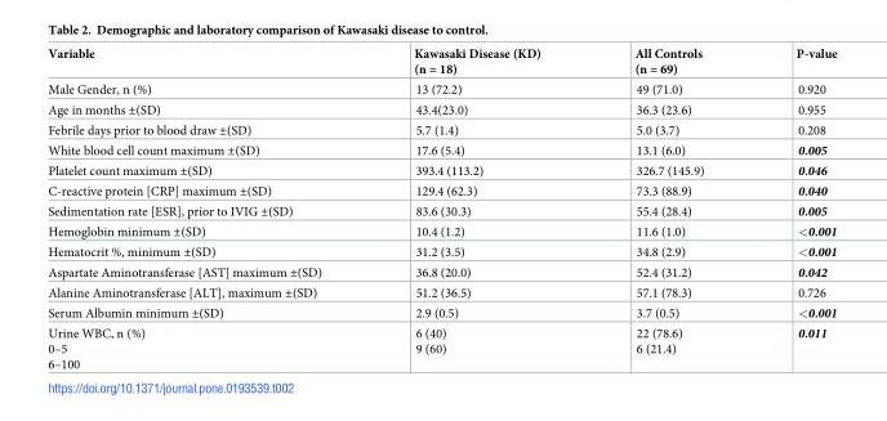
<table><thead><tr><td>Variable</td><td>Kawasaki Disease (KD) (n = 18)</td><td>All Controls (n = 69)</td><td>P-value</td></tr></thead><tbody><tr><td>Male Gender, n (%)</td><td>13 (72.2)</td><td>49 (71.0)</td><td>0.920</td></tr><tr><td>Age in months ±(SD)</td><td>43.4(23.0)</td><td>36.3 (23.6)</td><td>0.955</td></tr><tr><td>Febrile days prior to blood draw ±(SD)</td><td>5.7 (1.4)</td><td>5.0 (3.7)</td><td>0.208</td></tr><tr><td>White blood cell count maximum ±(SD)</td><td>17.6 (5.4)</td><td>13.1 (6.0)</td><td>0.005</td></tr><tr><td>Platelet count maximum ±(SD)</td><td>393.4 (113.2)</td><td>326.7 (145.9)</td><td>0.046</td></tr><tr><td>C-reactive protein [CRP] maximum ±(SD)</td><td>129.4 (62.3)</td><td>73.3 (88.9)</td><td>0.040</td></tr><tr><td>Sedimentation rate [ESR], prior to IVIG ±(SD)</td><td>83.6 (30.3)</td><td>55.4 (28.4)</td><td>0.005</td></tr><tr><td>Hemoglobin minimum ±(SD)</td><td>10.4 (1.2)</td><td>11.6 (1.0)</td><td>&lt;0.001</td></tr><tr><td>Hematocrit %, minimum ±(SD)</td><td>31.2 (3.5)</td><td>34.8 (2.9)</td><td>&lt;0.001</td></tr><tr><td>Aspartate Aminotransferase [AST] maximum ±(SD)</td><td>36.8 (20.0)</td><td>52.4 (31.2)</td><td>0.042</td></tr><tr><td>Alanine Aminotransferase [ALT], maximum ±(SD)</td><td>51.2 (36.5)</td><td>57.1 (78.3)</td><td>0.726</td></tr><tr><td>Serum Albumin minimum ±(SD)</td><td>2.9 (0.5)</td><td>3.7 (0.5)</td><td>&lt;0.001</td></tr><tr><td>Urine WBC, n (%) 0–5 6–100</td><td>6 (40) 9 (60)</td><td>22 (78.6) 6 (21.4)</td><td>0.011</td></tr></tbody></table>